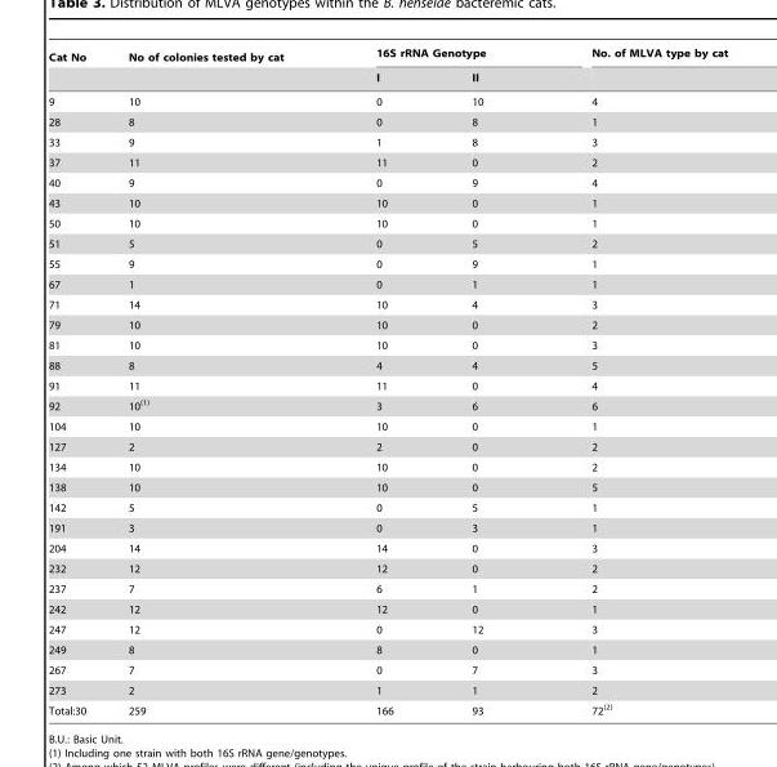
<table><thead><tr><td rowspan="2">Cat No</td><td rowspan="2">No of colonies tested by cat</td><td colspan="2">16S rRNA Genotype</td><td rowspan="2">No. of MLVA type by cat</td></tr><tr><td>I</td><td>II</td></tr></thead><tbody><tr><td>9</td><td>10</td><td>0</td><td>10</td><td>4</td></tr><tr><td>28</td><td>8</td><td>0</td><td>8</td><td>1</td></tr><tr><td>33</td><td>9</td><td>1</td><td>8</td><td>3</td></tr><tr><td>37</td><td>11</td><td>11</td><td>0</td><td>2</td></tr><tr><td>40</td><td>9</td><td>0</td><td>9</td><td>4</td></tr><tr><td>43</td><td>10</td><td>10</td><td>0</td><td>1</td></tr><tr><td>50</td><td>10</td><td>10</td><td>0</td><td>1</td></tr><tr><td>51</td><td>5</td><td>0</td><td>5</td><td>2</td></tr><tr><td>55</td><td>9</td><td>0</td><td>9</td><td>1</td></tr><tr><td>67</td><td>1</td><td>0</td><td>1</td><td>1</td></tr><tr><td>71</td><td>14</td><td>10</td><td>4</td><td>3</td></tr><tr><td>79</td><td>10</td><td>10</td><td>0</td><td>2</td></tr><tr><td>81</td><td>10</td><td>10</td><td>0</td><td>3</td></tr><tr><td>88</td><td>8</td><td>4</td><td>4</td><td>5</td></tr><tr><td>91</td><td>11</td><td>11</td><td>0</td><td>4</td></tr><tr><td>92</td><td>10<sup>(1)</sup></td><td>3</td><td>6</td><td>6</td></tr><tr><td>104</td><td>10</td><td>10</td><td>0</td><td>1</td></tr><tr><td>127</td><td>2</td><td>2</td><td>0</td><td>2</td></tr><tr><td>134</td><td>10</td><td>10</td><td>0</td><td>2</td></tr><tr><td>138</td><td>10</td><td>10</td><td>0</td><td>5</td></tr><tr><td>142</td><td>5</td><td>0</td><td>5</td><td>1</td></tr><tr><td>191</td><td>3</td><td>0</td><td>3</td><td>1</td></tr><tr><td>204</td><td>14</td><td>14</td><td>0</td><td>3</td></tr><tr><td>232</td><td>12</td><td>12</td><td>0</td><td>2</td></tr><tr><td>237</td><td>7</td><td>6</td><td>1</td><td>2</td></tr><tr><td>242</td><td>12</td><td>12</td><td>0</td><td>1</td></tr><tr><td>247</td><td>12</td><td>0</td><td>12</td><td>3</td></tr><tr><td>249</td><td>8</td><td>8</td><td>0</td><td>1</td></tr><tr><td>267</td><td>7</td><td>0</td><td>7</td><td>3</td></tr><tr><td>273</td><td>2</td><td>1</td><td>1</td><td>2</td></tr><tr><td>Total:30</td><td>259</td><td>166</td><td>93</td><td>72<sup>(2)</sup></td></tr></tbody></table>